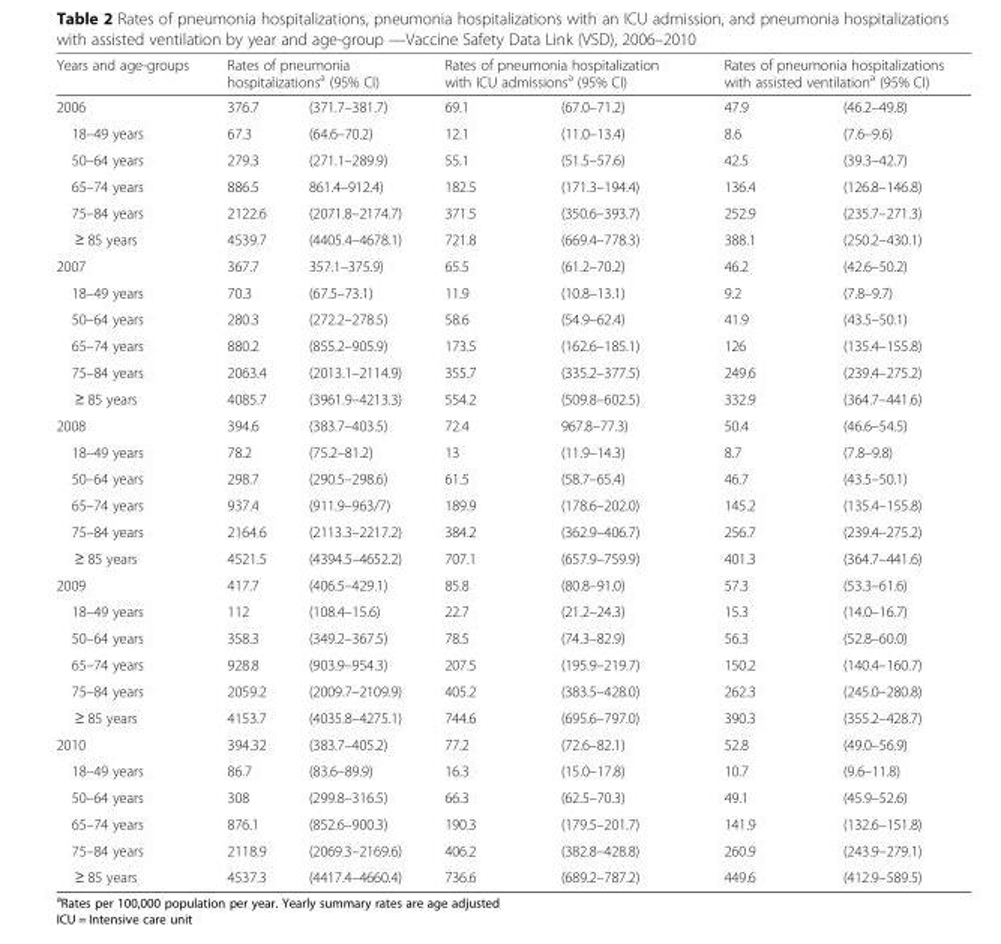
<table><thead><tr><td rowspan="2">Years and age-groups 2006</td><td colspan="2">Rates of pneumonia hospitalizations<sup>a</sup> (95% CI)</td><td colspan="2">Rates of pneumonia hospitalization with ICU admissions<sup>a</sup> (95% CI)</td><td colspan="2">Rates of pneumonia hospitalizations with assisted ventilation<sup>a</sup> (95% CI)</td></tr><tr><td>376.7</td><td>(371.7–381.7)</td><td>69.1</td><td>(67.0–71.2)</td><td>47.9</td><td>(46.2–49.8)</td></tr></thead><tbody><tr><td>18–49 years</td><td>67.3</td><td>(64.6–70.2)</td><td>12.1</td><td>(11.0–13.4)</td><td>8.6</td><td>(7.6–9.6)</td></tr><tr><td>50–64 years</td><td>279.3</td><td>(271.1–289.9)</td><td>55.1</td><td>(51.5–57.6)</td><td>42.5</td><td>(39.3–42.7)</td></tr><tr><td>65–74 years</td><td>886.5</td><td>861.4–912.4)</td><td>182.5</td><td>(171.3–194.4)</td><td>136.4</td><td>(126.8–146.8)</td></tr><tr><td>75–84 years</td><td>2122.6</td><td>(2071.8–2174.7)</td><td>371.5</td><td>(350.6–393.7)</td><td>252.9</td><td>(235.7–271.3)</td></tr><tr><td>≥ 85 years</td><td>4539.7</td><td>(4405.4–4678.1)</td><td>721.8</td><td>(669.4–778.3)</td><td>388.1</td><td>(250.2–430.1)</td></tr><tr><td>2007</td><td>367.7</td><td>357.1–375.9)</td><td>65.5</td><td>(61.2–70.2)</td><td>46.2</td><td>(42.6–50.2)</td></tr><tr><td>18–49 years</td><td>70.3</td><td>(67.5–73.1)</td><td>11.9</td><td>(10.8–13.1)</td><td>9.2</td><td>(7.8–9.7)</td></tr><tr><td>50–64 years</td><td>280.3</td><td>(272.2–278.5)</td><td>58.6</td><td>(54.9–62.4)</td><td>41.9</td><td>(43.5–50.1)</td></tr><tr><td>65–74 years</td><td>880.2</td><td>(855.2–905.9)</td><td>173.5</td><td>(162.6–185.1)</td><td>126</td><td>(135.4–155.8)</td></tr><tr><td>75–84 years</td><td>2063.4</td><td>(2013.1–2114.9)</td><td>355.7</td><td>(335.2–377.5)</td><td>249.6</td><td>(239.4–275.2)</td></tr><tr><td>≥ 85 years</td><td>4085.7</td><td>(3961.9–4213.3)</td><td>554.2</td><td>(509.8–602.5)</td><td>332.9</td><td>(364.7–441.6)</td></tr><tr><td>2008</td><td>394.6</td><td>(383.7–403.5)</td><td>72.4</td><td>967.8–77.3)</td><td>50.4</td><td>(46.6–54.5)</td></tr><tr><td>18–49 years</td><td>78.2</td><td>(75.2–81.2)</td><td>13</td><td>(11.9–14.3)</td><td>8.7</td><td>(7.8–9.8)</td></tr><tr><td>50–64 years</td><td>298.7</td><td>(290.5–298.6)</td><td>61.5</td><td>(58.7–65.4)</td><td>46.7</td><td>(43.5–50.1)</td></tr><tr><td>65–74 years</td><td>937.4</td><td>(911.9–963/7)</td><td>189.9</td><td>(178.6–202.0)</td><td>145.2</td><td>(135.4–155.8)</td></tr><tr><td>75–84 years</td><td>2164.6</td><td>(2113.3–2217.2)</td><td>384.2</td><td>(362.9–406.7)</td><td>256.7</td><td>(239.4–275.2)</td></tr><tr><td>≥ 85 years</td><td>4521.5</td><td>(4394.5–4652.2)</td><td>707.1</td><td>(657.9–759.9)</td><td>401.3</td><td>(364.7–441.6)</td></tr><tr><td>2009</td><td>417.7</td><td>(406.5–429.1)</td><td>85.8</td><td>(80.8–91.0)</td><td>57.3</td><td>(53.3–61.6)</td></tr><tr><td>18–49 years</td><td>112</td><td>(108.4–15.6)</td><td>22.7</td><td>(21.2–24.3)</td><td>15.3</td><td>(14.0–16.7)</td></tr><tr><td>50–64 years</td><td>358.3</td><td>(349.2–367.5)</td><td>78.5</td><td>(74.3–82.9)</td><td>56.3</td><td>(52.8–60.0)</td></tr><tr><td>65–74 years</td><td>928.8</td><td>(903.9–954.3)</td><td>207.5</td><td>(195.9–219.7)</td><td>150.2</td><td>(140.4–160.7)</td></tr><tr><td>75–84 years</td><td>2059.2</td><td>(2009.7–2109.9)</td><td>405.2</td><td>(383.5–428.0)</td><td>262.3</td><td>(245.0–280.8)</td></tr><tr><td>≥ 85 years</td><td>4153.7</td><td>(4035.8–4275.1)</td><td>744.6</td><td>(695.6–797.0)</td><td>390.3</td><td>(355.2–428.7)</td></tr><tr><td>2010</td><td>394.32</td><td>(383.7–405.2)</td><td>77.2</td><td>(72.6–82.1)</td><td>52.8</td><td>(49.0–56.9)</td></tr><tr><td>18–49 years</td><td>86.7</td><td>(83.6–89.9)</td><td>16.3</td><td>(15.0–17.8)</td><td>10.7</td><td>(9.6–11.8)</td></tr><tr><td>50–64 years</td><td>308</td><td>(299.8–316.5)</td><td>66.3</td><td>(62.5–70.3)</td><td>49.1</td><td>(45.9–52.6)</td></tr><tr><td>65–74 years</td><td>876.1</td><td>(852.6–900.3)</td><td>190.3</td><td>(179.5–201.7)</td><td>141.9</td><td>(132.6–151.8)</td></tr><tr><td>75–84 years</td><td>2118.9</td><td>(2069.3–2169.6)</td><td>406.2</td><td>(382.8–428.8)</td><td>260.9</td><td>(243.9–279.1)</td></tr><tr><td>≥ 85 years</td><td>4537.3</td><td>(4417.4–4660.4)</td><td>736.6</td><td>(689.2–787.2)</td><td>449.6</td><td>(412.9–589.5)</td></tr></tbody></table>